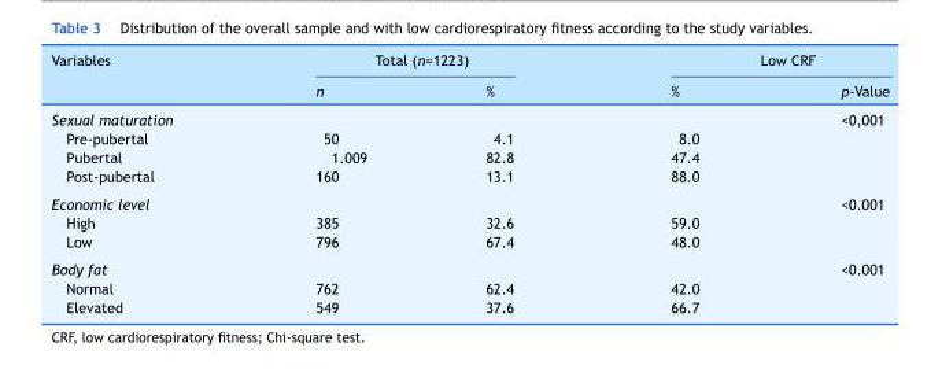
<table><thead><tr><td rowspan="2">Variables</td><td colspan="2">Total (n=1223)</td><td colspan="2">Low CRF</td></tr><tr><td>n</td><td>%</td><td>%</td><td>p-Value</td></tr></thead><tbody><tr><td>Sexual maturation</td><td></td><td></td><td></td><td>&lt;0,001</td></tr><tr><td>Pre-pubertal</td><td>50</td><td>4.1</td><td>8.0</td><td></td></tr><tr><td>Pubertal</td><td>1.009</td><td>82.8</td><td>47.4</td><td></td></tr><tr><td>Post-pubertal</td><td>160</td><td>13.1</td><td>88.0</td><td></td></tr><tr><td>Economic level</td><td></td><td></td><td></td><td>&lt;0.001</td></tr><tr><td>High</td><td>385</td><td>32.6</td><td>59.0</td><td></td></tr><tr><td>Low</td><td>796</td><td>67.4</td><td>48.0</td><td></td></tr><tr><td>Body fat</td><td></td><td></td><td></td><td>&lt;0.001</td></tr><tr><td>Normal</td><td>762</td><td>62.4</td><td>42.0</td><td></td></tr><tr><td>Elevated</td><td>549</td><td>37.6</td><td>66.7</td><td></td></tr></tbody></table>